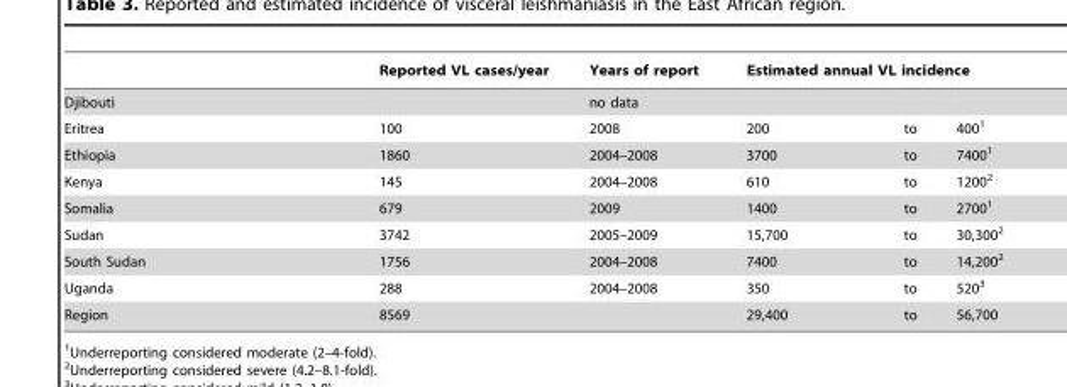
<table><thead><tr><td rowspan="2">Djibouti</td><td rowspan="2">Reported VL cases/year</td><td rowspan="2">Years of report no data</td><td colspan="3">Estimated annual VL incidence</td></tr><tr><td></td><td></td><td></td></tr></thead><tbody><tr><td>Eritrea</td><td>100</td><td>2008</td><td>200</td><td>to</td><td>400<sup>1</sup></td></tr><tr><td>Ethiopia</td><td>1860</td><td>2004–2008</td><td>3700</td><td>to</td><td>7400<sup>1</sup></td></tr><tr><td>Kenya</td><td>145</td><td>2004–2008</td><td>610</td><td>to</td><td>1200<sup>2</sup></td></tr><tr><td>Somalia</td><td>679</td><td>2009</td><td>1400</td><td>to</td><td>2700<sup>1</sup></td></tr><tr><td>Sudan</td><td>3742</td><td>2005–2009</td><td>15,700</td><td>to</td><td>30,300<sup>2</sup></td></tr><tr><td>South Sudan</td><td>1756</td><td>2004–2008</td><td>7400</td><td>to</td><td>14,200<sup>2</sup></td></tr><tr><td>Uganda</td><td>288</td><td>2004–2008</td><td>350</td><td>to</td><td>520<sup>3</sup></td></tr><tr><td>Region</td><td>8569</td><td></td><td>29,400</td><td>to</td><td>56,700</td></tr></tbody></table>